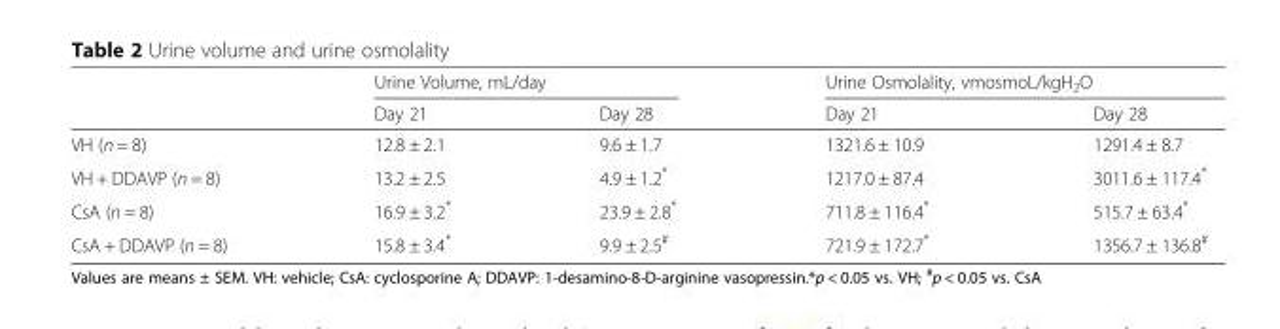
<table><thead><tr><td rowspan="2"></td><td colspan="2">Urine Volume, mL/day</td><td colspan="2">Urine Osmolality, vmosmoL/kgH<sub>2</sub>O</td></tr><tr><td>Day 21</td><td>Day 28</td><td>Day 21</td><td>Day 28</td></tr></thead><tbody><tr><td>VH (n = 8)</td><td>12.8 ± 2.1</td><td>9.6 ± 1.7</td><td>1321.6 ± 10.9</td><td>1291.4 ± 8.7</td></tr><tr><td>VH + DDAVP (n = 8)</td><td>13.2 ± 2.5</td><td>4.9 ± 1.2*</td><td>1217.0 ± 87.4</td><td>3011.6 ± 117.4*</td></tr><tr><td>CsA (n = 8)</td><td>16.9 ± 3.2*</td><td>23.9 ± 2.8*</td><td>711.8 ± 116.4*</td><td>515.7 ± 63.4*</td></tr><tr><td>CsA + DDAVP (n = 8)</td><td>15.8 ± 3.4*</td><td>9.9 ± 2.5<sup>#</sup></td><td>721.9 ± 172.7*</td><td>1356.7 ± 136.8<sup>#</sup></td></tr></tbody></table>